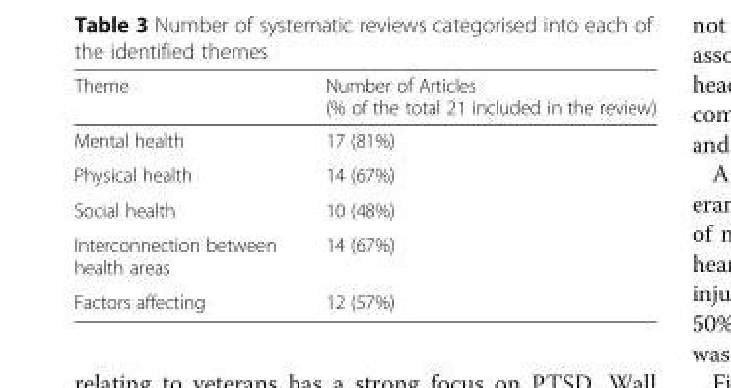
<table><thead><tr><td>Theme</td><td>Number of Articles (% of the total 21 included in the review)</td></tr></thead><tbody><tr><td>Mental health</td><td>17 (81%)</td></tr><tr><td>Physical health</td><td>14 (67%)</td></tr><tr><td>Social health</td><td>10 (48%)</td></tr><tr><td>Interconnection between health areas</td><td>14 (67%)</td></tr><tr><td>Factors affecting</td><td>12 (57%)</td></tr></tbody></table>